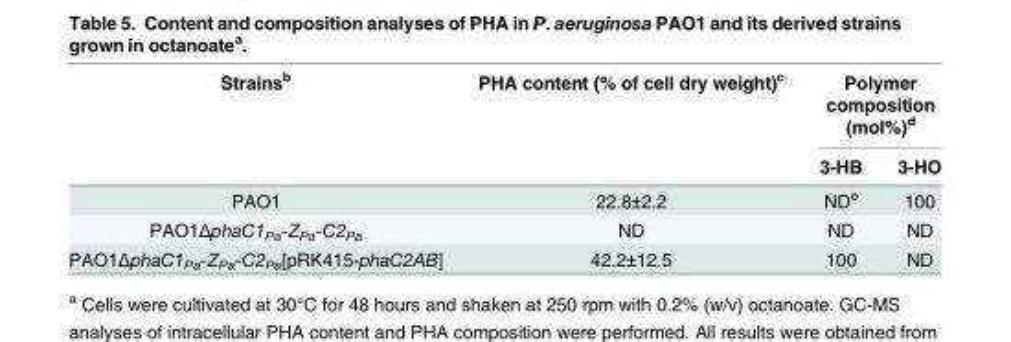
<table><thead><tr><td rowspan="2">Strains<sup>b</sup></td><td rowspan="2">PHA content (% of cell dry weight)<sup>c</sup></td><td colspan="2">Polymer composition (mol%)<sup>d</sup></td></tr><tr><td>3-HB</td><td>3-HO</td></tr></thead><tbody><tr><td>PAO1</td><td>22.8±2.2</td><td>ND<sup>e</sup></td><td>100</td></tr><tr><td>PAO1ΔphaC1<sub>Pa</sub>-Z<sub>Pa</sub>-C2<sub>Pa</sub></td><td>ND</td><td>ND</td><td>ND</td></tr><tr><td>PAO1ΔphaC1<sub>Pa</sub>-Z<sub>Pa</sub>-C2<sub>Pa</sub>[pRK415-phaC2AB]</td><td>42.2±12.5</td><td>100</td><td>ND</td></tr></tbody></table>